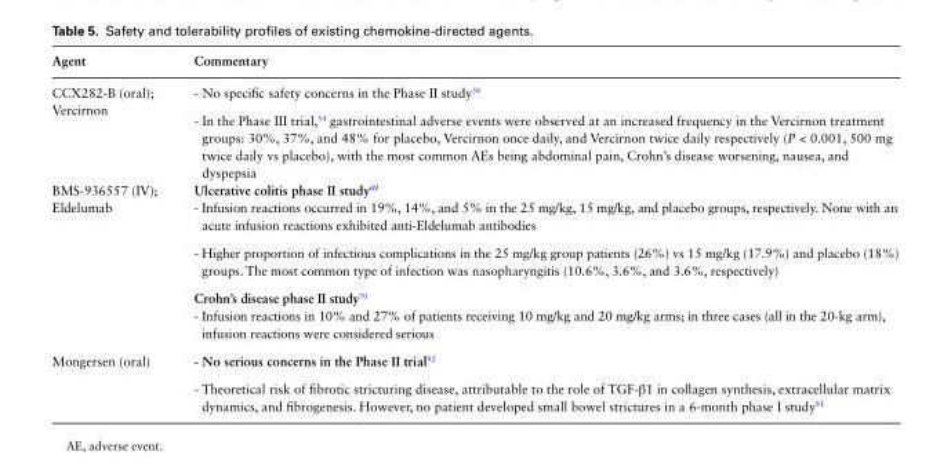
<table><thead><tr><td>Agent</td><td>Commentary</td></tr></thead><tbody><tr><td>CCX282-B (oral); Vercirnon</td><td>- No specific safety concerns in the Phase II study<sup>38</sup> - In the Phase III trial,<sup>54</sup> gastrointestinal adverse events were observed at an increased frequency in the Vercirnon treatment groups: 30%, 37%, and 48% for placebo, Vercirnon once daily, and Vercirnon twice daily respectively (P &lt; 0.001, 500 mg twice daily vs placebo), with the most common AEs being abdominal pain, Crohn’s disease worsening, nausea, and dyspepsia</td></tr><tr><td>BMS-936557 (IV); Eldelumab</td><td>Ulcerative colitis phase II study<sup>69</sup> - Infusion reactions occurred in 19%, 14%, and 5% in the 25 mg/kg, 15 mg/kg, and placebo groups, respectively. None with an acute infusion reactions exhibited anti-Eldelumab antibodies - Higher proportion of infectious complications in the 25 mg/kg group patients (26%) vs 15 mg/kg (17.9%) and placebo (18%) groups. The most common type of infection was nasopharyngitis (10.6%, 3.6%, and 3.6%, respectively) Crohn’s disease phase II study<sup>70</sup> - Infusion reactions in 10% and 27% of patients receiving 10 mg/kg and 20 mg/kg arms; in three cases (all in the 20-kg arm), infusion reactions were considered serious</td></tr><tr><td>Mongersen (oral)</td><td>- No serious concerns in the Phase II trial<sup>92</sup> - Theoretical risk of fibrotic stricturing disease, attributable to the role of TGF-β1 in collagen synthesis, extracellular matrix dynamics, and fibrogenesis. However, no patient developed small bowel strictures in a 6-month phase I study<sup>91</sup></td></tr></tbody></table>